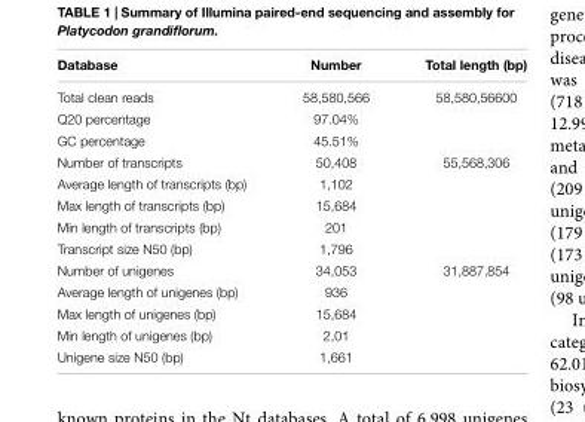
<table><thead><tr><td>Database</td><td>Number</td><td>Total length (bp)</td></tr></thead><tbody><tr><td>Total clean reads</td><td>58,580,566</td><td>58,580,56600</td></tr><tr><td>Q20 percentage</td><td>97.04%</td><td></td></tr><tr><td>GC percentage</td><td>45.51%</td><td></td></tr><tr><td>Number of transcripts</td><td>50,408</td><td>55,568,306</td></tr><tr><td>Average length of transcripts (bp)</td><td>1,102</td><td></td></tr><tr><td>Max length of transcripts (bp)</td><td>15,684</td><td></td></tr><tr><td>Min length of transcripts (bp)</td><td>201</td><td></td></tr><tr><td>Transcript size N50 (bp)</td><td>1,796</td><td></td></tr><tr><td>Number of unigenes</td><td>34,053</td><td>31,887,854</td></tr><tr><td>Average length of unigenes (bp)</td><td>936</td><td></td></tr><tr><td>Max length of unigenes (bp)</td><td>15,684</td><td></td></tr><tr><td>Min length of unigenes (bp)</td><td>2,01</td><td></td></tr><tr><td>Unigene size N50 (bp)</td><td>1,661</td><td></td></tr></tbody></table>